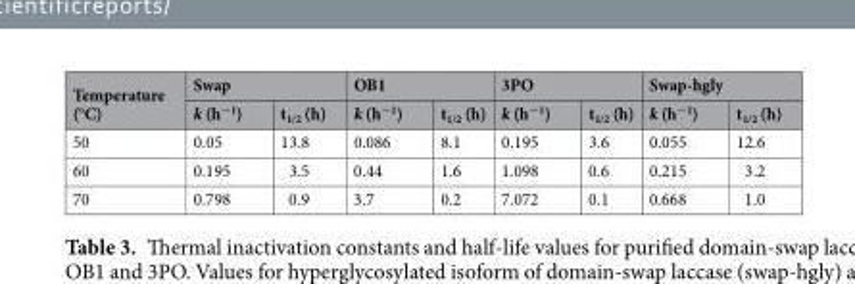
<table><thead><tr><td rowspan="2">Temperature (°C)</td><td colspan="2">Swap</td><td colspan="2">OB1</td><td colspan="2">3PO</td><td colspan="2">Swap-hgly</td></tr><tr><td>k (h<sup>−1</sup>)</td><td>t<sub>1/2</sub> (h)</td><td>k (h<sup>−1</sup>)</td><td>t<sub>1/2</sub> (h)</td><td>k (h<sup>−1</sup>)</td><td>t<sub>1/2</sub> (h)</td><td>k (h<sup>−1</sup>)</td><td>t<sub>1/2</sub> (h)</td></tr></thead><tbody><tr><td>50</td><td>0.05</td><td>13.8</td><td>0.086</td><td>8.1</td><td>0.195</td><td>3.6</td><td>0.055</td><td>12.6</td></tr><tr><td>60</td><td>0.195</td><td>3.5</td><td>0.44</td><td>1.6</td><td>1.098</td><td>0.6</td><td>0.215</td><td>3.2</td></tr><tr><td>70</td><td>0.798</td><td>0.9</td><td>3.7</td><td>0.2</td><td>7.072</td><td>0.1</td><td>0.668</td><td>1.0</td></tr></tbody></table>